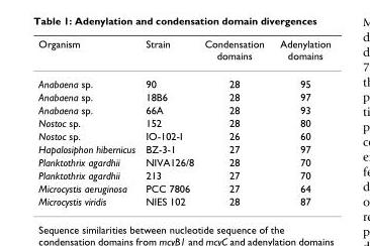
<table><thead><tr><td>Organism</td><td>Strain</td><td>Condensation domains</td><td>Adenylation domains</td></tr></thead><tbody><tr><td>Anabaena sp.</td><td>90</td><td>28</td><td>95</td></tr><tr><td>Anabaena sp.</td><td>18B6</td><td>28</td><td>97</td></tr><tr><td>Anabaena sp.</td><td>66A</td><td>28</td><td>93</td></tr><tr><td>Nostoc sp.</td><td>152</td><td>28</td><td>80</td></tr><tr><td>Nostoc sp.</td><td>IO-102-I</td><td>26</td><td>60</td></tr><tr><td>Hapalosiphon hibernicus</td><td>BZ-3-1</td><td>27</td><td>97</td></tr><tr><td>Planktothrix agardhii</td><td>NIVA126/8</td><td>28</td><td>70</td></tr><tr><td>Planktothrix agardhii</td><td>213</td><td>27</td><td>70</td></tr><tr><td>Microcystis aeruginosa</td><td>PCC 7806</td><td>27</td><td>64</td></tr><tr><td>Microcystis viridis</td><td>NIES 102</td><td>28</td><td>87</td></tr></tbody></table>